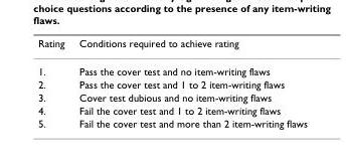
<table><thead><tr><td>Rating</td><td>Conditions required to achieve rating</td></tr></thead><tbody><tr><td>1.</td><td>Pass the cover test and no item-writing flaws</td></tr><tr><td>2.</td><td>Pass the cover test and 1 to 2 item-writing flaws</td></tr><tr><td>3.</td><td>Cover test dubious and no item-writing flaws</td></tr><tr><td>4.</td><td>Fail the cover test and 1 to 2 item-writing flaws</td></tr><tr><td>5.</td><td>Fail the cover test and more than 2 item-writing flaws</td></tr></tbody></table>